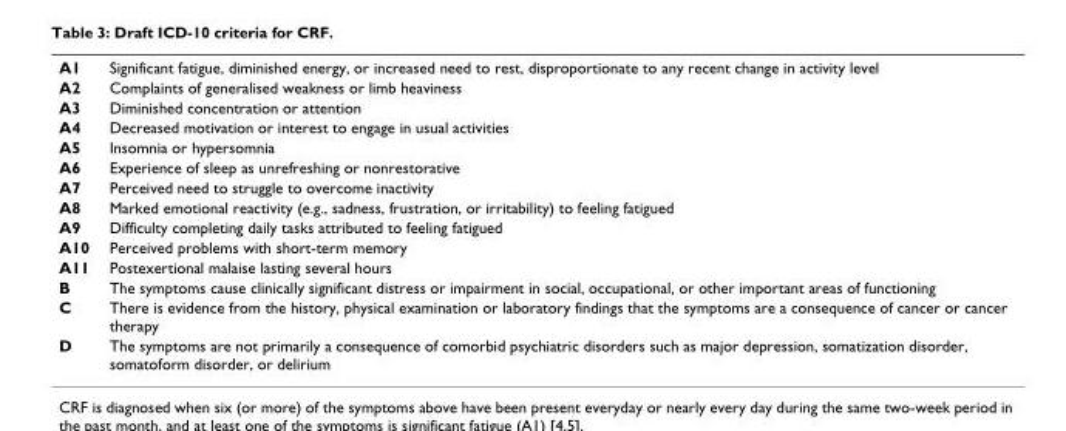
<table><tbody><tr><td>A1</td><td>Significant fatigue, diminished energy, or increased need to rest, disproportionate to any recent change in activity level</td></tr><tr><td>A2</td><td>Complaints of generalised weakness or limb heaviness</td></tr><tr><td>A3</td><td>Diminished concentration or attention</td></tr><tr><td>A4</td><td>Decreased motivation or interest to engage in usual activities</td></tr><tr><td>A5</td><td>Insomnia or hypersomnia</td></tr><tr><td>A6</td><td>Experience of sleep as unrefreshing or nonrestorative</td></tr><tr><td>A7</td><td>Perceived need to struggle to overcome inactivity</td></tr><tr><td>A8</td><td>Marked emotional reactivity (e.g., sadness, frustration, or irritability) to feeling fatigued</td></tr><tr><td>A9</td><td>Difficulty completing daily tasks attributed to feeling fatigued</td></tr><tr><td>A10</td><td>Perceived problems with short-term memory</td></tr><tr><td>A11</td><td>Postexertional malaise lasting several hours</td></tr><tr><td>B</td><td>The symptoms cause clinically significant distress or impairment in social, occupational, or other important areas of functioning</td></tr><tr><td>C</td><td>There is evidence from the history, physical examination or laboratory findings that the symptoms are a consequence of cancer or cancer therapy</td></tr><tr><td>D</td><td>The symptoms are not primarily a consequence of comorbid psychiatric disorders such as major depression, somatization disorder, somatoform disorder, or delirium</td></tr></tbody></table>